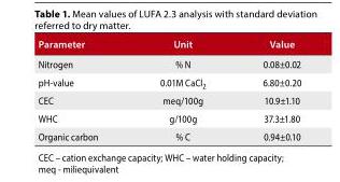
<table><thead><tr><td>Parameter</td><td>Unit</td><td>Value</td></tr></thead><tbody><tr><td>Nitrogen</td><td>% N</td><td>0.08±0.02</td></tr><tr><td>pH-value</td><td>0.01M CaCl<sub>2</sub></td><td>6.80±0.20</td></tr><tr><td>CEC</td><td>meq/100g</td><td>10.9±1.10</td></tr><tr><td>WHC</td><td>g/100g</td><td>37.3±1.80</td></tr><tr><td>Organic carbon</td><td>% C</td><td>0.94±0.10</td></tr></tbody></table>